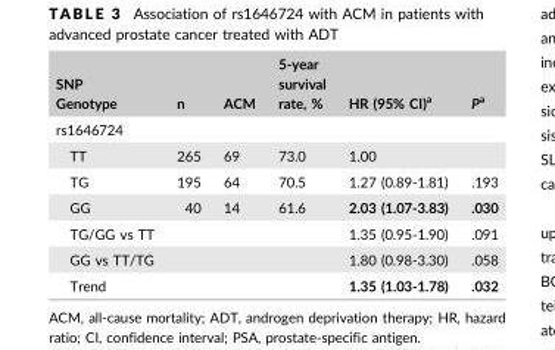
<table><thead><tr><td>SNP Genotype</td><td>n</td><td>ACM</td><td>5-year survival rate, %</td><td>HR (95% CI)<sup>a</sup></td><td>Pa</td></tr></thead><tbody><tr><td colspan="6">rs1646724</td></tr><tr><td>TT</td><td>265</td><td>69</td><td>73.0</td><td>1.00</td><td></td></tr><tr><td>TG</td><td>195</td><td>64</td><td>70.5</td><td>1.27 (0.89-1.81)</td><td>.193</td></tr><tr><td>GG</td><td>40</td><td>14</td><td>61.6</td><td>2.03 (1.07-3.83)</td><td>.030</td></tr><tr><td>TG/GG vs TT</td><td></td><td></td><td></td><td>1.35 (0.95-1.90)</td><td>.091</td></tr><tr><td>GG vs TT/TG</td><td></td><td></td><td></td><td>1.80 (0.98-3.30)</td><td>.058</td></tr><tr><td>Trend</td><td></td><td></td><td></td><td>1.35 (1.03-1.78)</td><td>.032</td></tr></tbody></table>